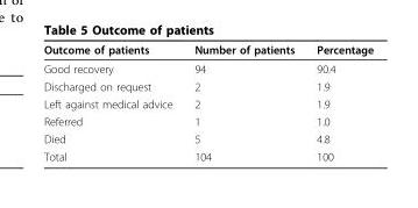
<table><thead><tr><td>Outcome of patients</td><td>Number of patients</td><td>Percentage</td></tr></thead><tbody><tr><td>Good recovery</td><td>94</td><td>90.4</td></tr><tr><td>Discharged on request</td><td>2</td><td>1.9</td></tr><tr><td>Left against medical advice</td><td>2</td><td>1.9</td></tr><tr><td>Referred</td><td>1</td><td>1.0</td></tr><tr><td>Died</td><td>5</td><td>4.8</td></tr><tr><td>Total</td><td>104</td><td>100</td></tr></tbody></table>